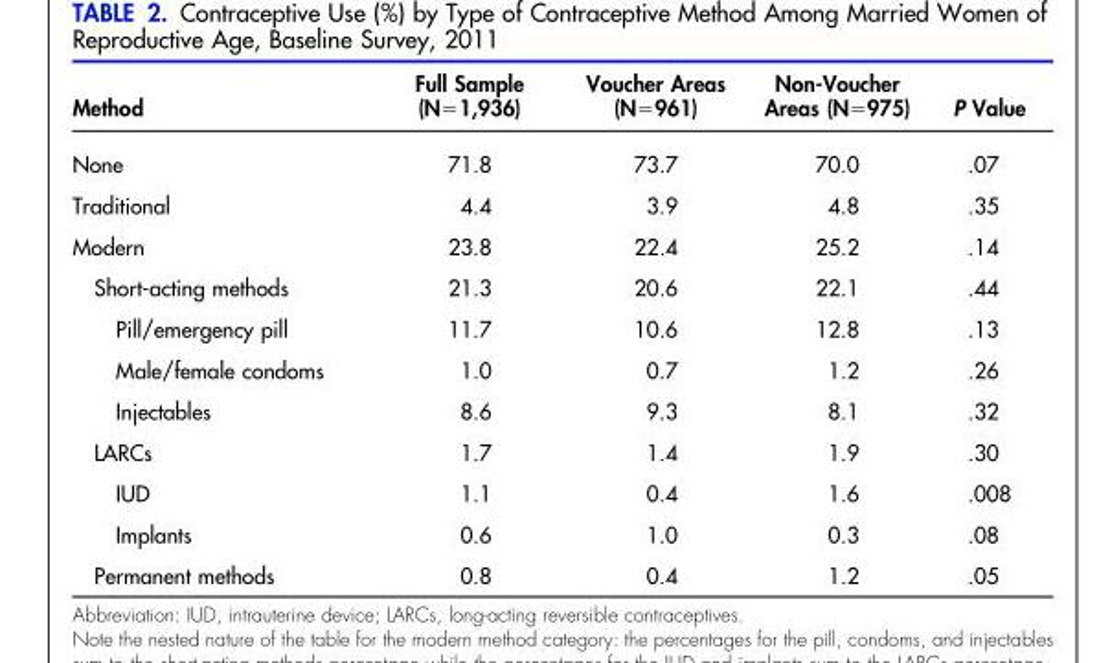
<table><thead><tr><td>Method</td><td>Full Sample (N=1,936)</td><td>Voucher Areas (N=961)</td><td>Non-Voucher Areas (N=975)</td><td>P Value</td></tr></thead><tbody><tr><td>None</td><td>71.8</td><td>73.7</td><td>70.0</td><td>.07</td></tr><tr><td>Traditional</td><td>4.4</td><td>3.9</td><td>4.8</td><td>.35</td></tr><tr><td>Modern</td><td>23.8</td><td>22.4</td><td>25.2</td><td>.14</td></tr><tr><td>Short-acting methods</td><td>21.3</td><td>20.6</td><td>22.1</td><td>.44</td></tr><tr><td>Pill/emergency pill</td><td>11.7</td><td>10.6</td><td>12.8</td><td>.13</td></tr><tr><td>Male/female condoms</td><td>1.0</td><td>0.7</td><td>1.2</td><td>.26</td></tr><tr><td>Injectables</td><td>8.6</td><td>9.3</td><td>8.1</td><td>.32</td></tr><tr><td>LARCs</td><td>1.7</td><td>1.4</td><td>1.9</td><td>.30</td></tr><tr><td>IUD</td><td>1.1</td><td>0.4</td><td>1.6</td><td>.008</td></tr><tr><td>Implants</td><td>0.6</td><td>1.0</td><td>0.3</td><td>.08</td></tr><tr><td>Permanent methods</td><td>0.8</td><td>0.4</td><td>1.2</td><td>.05</td></tr></tbody></table>